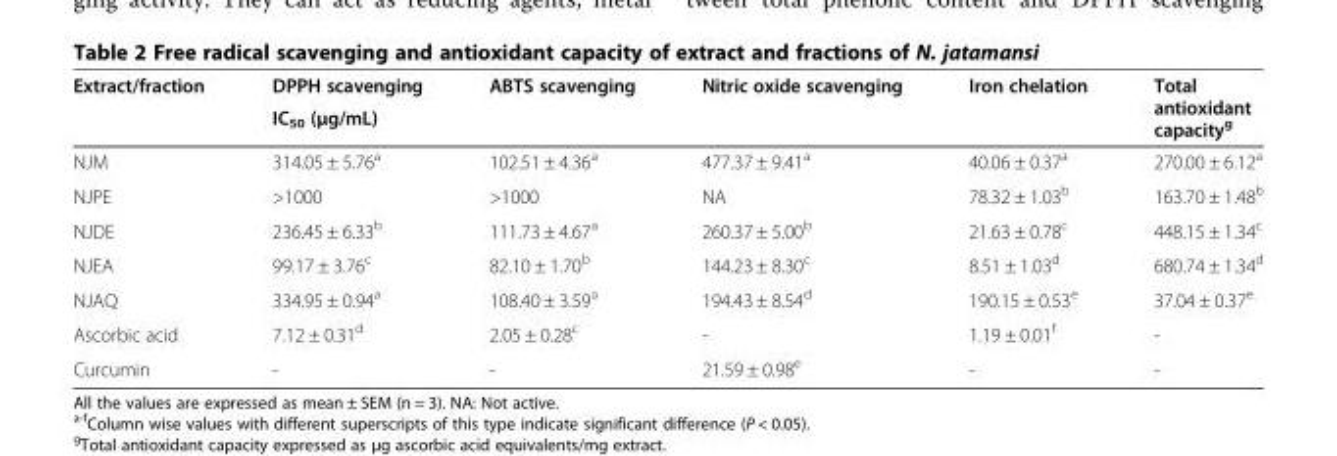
<table><thead><tr><td rowspan="2">Extract/fraction</td><td>DPPH scavenging</td><td>ABTS scavenging</td><td>Nitric oxide scavenging</td><td>Iron chelation</td><td rowspan="2">Total antioxidant capacity<sup>g</sup></td></tr><tr><td colspan="4">IC<sub>50</sub> (μg/mL)</td></tr></thead><tbody><tr><td>NJM</td><td>314.05 ± 5.76<sup>a</sup></td><td>102.51 ± 4.36<sup>a</sup></td><td>477.37 ± 9.41<sup>a</sup></td><td>40.06 ± 0.37<sup>a</sup></td><td>270.00 ± 6.12<sup>a</sup></td></tr><tr><td>NJPE</td><td>&gt;1000</td><td>&gt;1000</td><td>NA</td><td>78.32 ± 1.03<sup>b</sup></td><td>163.70 ± 1.48<sup>b</sup></td></tr><tr><td>NJDE</td><td>236.45 ± 6.33<sup>b</sup></td><td>111.73 ± 4.67<sup>a</sup></td><td>260.37 ± 5.00<sup>b</sup></td><td>21.63 ± 0.78<sup>c</sup></td><td>448.15 ± 1.34<sup>c</sup></td></tr><tr><td>NJEA</td><td>99.17 ± 3.76<sup>c</sup></td><td>82.10 ± 1.70<sup>b</sup></td><td>144.23 ± 8.30<sup>c</sup></td><td>8.51 ± 1.03<sup>d</sup></td><td>680.74 ± 1.34<sup>d</sup></td></tr><tr><td>NJAQ</td><td>334.95 ± 0.94<sup>a</sup></td><td>108.40 ± 3.59<sup>a</sup></td><td>194.43 ± 8.54<sup>d</sup></td><td>190.15 ± 0.53<sup>e</sup></td><td>37.04 ± 0.37<sup>e</sup></td></tr><tr><td>Ascorbic acid</td><td>7.12 ± 0.31<sup>d</sup></td><td>2.05 ± 0.28<sup>c</sup></td><td>-</td><td>1.19 ± 0.01<sup>f</sup></td><td>-</td></tr><tr><td>Curcumin</td><td>-</td><td>-</td><td>21.59 ± 0.98<sup>e</sup></td><td>-</td><td>-</td></tr></tbody></table>